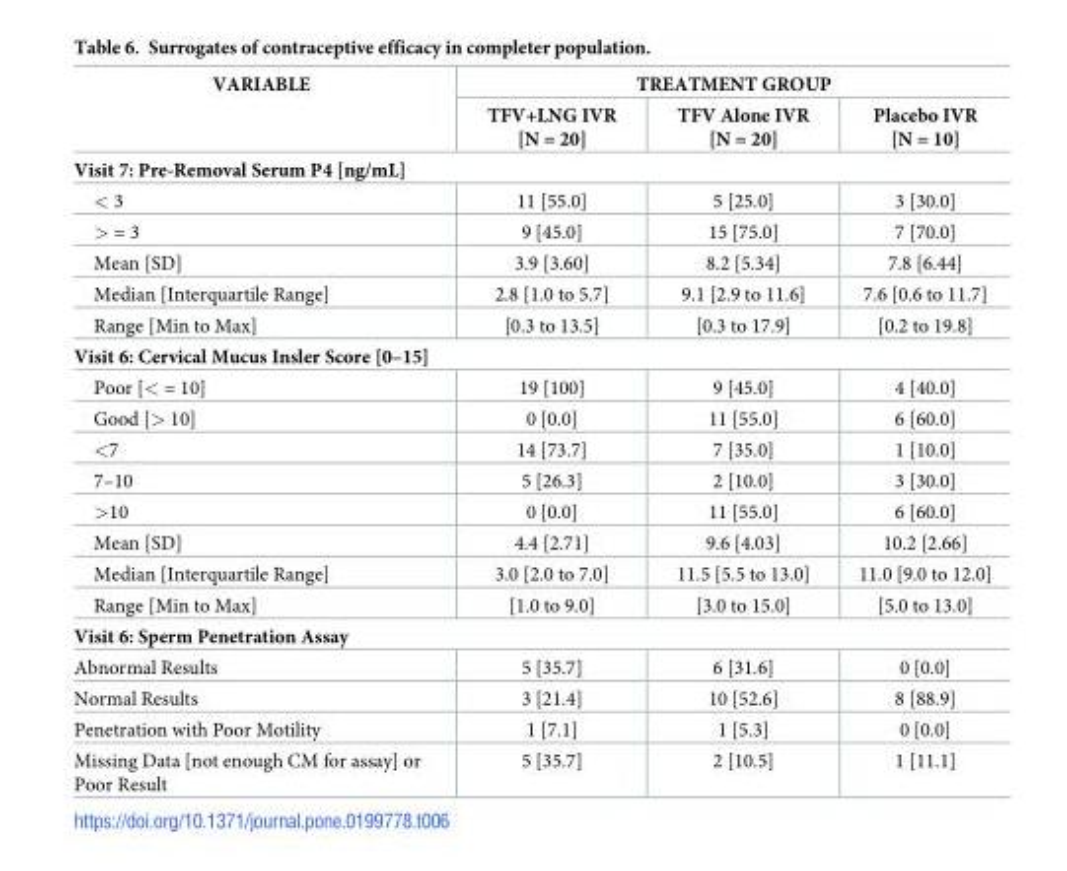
<table><thead><tr><td rowspan="2">VARIABLE</td><td colspan="3">TREATMENT GROUP</td></tr><tr><td>TFV+LNG IVR [N = 20]</td><td>TFV Alone IVR [N = 20]</td><td>Placebo IVR [N = 10]</td></tr></thead><tbody><tr><td colspan="4">Visit 7: Pre-Removal Serum P4 [ng/mL]</td></tr><tr><td>&lt; 3</td><td>11 [55.0]</td><td>5 [25.0]</td><td>3 [30.0]</td></tr><tr><td>&gt; = 3</td><td>9 [45.0]</td><td>15 [75.0]</td><td>7 [70.0]</td></tr><tr><td>Mean [SD]</td><td>3.9 [3.60]</td><td>8.2 [5.34]</td><td>7.8 [6.44]</td></tr><tr><td>Median [Interquartile Range]</td><td>2.8 [1.0 to 5.7]</td><td>9.1 [2.9 to 11.6]</td><td>7.6 [0.6 to 11.7]</td></tr><tr><td>Range [Min to Max]</td><td>[0.3 to 13.5]</td><td>[0.3 to 17.9]</td><td>[0.2 to 19.8]</td></tr><tr><td colspan="4">Visit 6: Cervical Mucus Insler Score [0–15]</td></tr><tr><td>Poor [&lt; = 10]</td><td>19 [100]</td><td>9 [45.0]</td><td>4 [40.0]</td></tr><tr><td>Good [&gt; 10]</td><td>0 [0.0]</td><td>11 [55.0]</td><td>6 [60.0]</td></tr><tr><td>&lt;7</td><td>14 [73.7]</td><td>7 [35.0]</td><td>1 [10.0]</td></tr><tr><td>7–10</td><td>5 [26.3]</td><td>2 [10.0]</td><td>3 [30.0]</td></tr><tr><td>&gt;10</td><td>0 [0.0]</td><td>11 [55.0]</td><td>6 [60.0]</td></tr><tr><td>Mean [SD]</td><td>4.4 [2.71]</td><td>9.6 [4.03]</td><td>10.2 [2.66]</td></tr><tr><td>Median [Interquartile Range]</td><td>3.0 [2.0 to 7.0]</td><td>11.5 [5.5 to 13.0]</td><td>11.0 [9.0 to 12.0]</td></tr><tr><td>Range [Min to Max]</td><td>[1.0 to 9.0]</td><td>[3.0 to 15.0]</td><td>[5.0 to 13.0]</td></tr><tr><td colspan="4">Visit 6: Sperm Penetration Assay</td></tr><tr><td>Abnormal Results</td><td>5 [35.7]</td><td>6 [31.6]</td><td>0 [0.0]</td></tr><tr><td>Normal Results</td><td>3 [21.4]</td><td>10 [52.6]</td><td>8 [88.9]</td></tr><tr><td>Penetration with Poor Motility</td><td>1 [7.1]</td><td>1 [5.3]</td><td>0 [0.0]</td></tr><tr><td>Missing Data [not enough CM for assay] or Poor Result</td><td>5 [35.7]</td><td>2 [10.5]</td><td>1 [11.1]</td></tr></tbody></table>